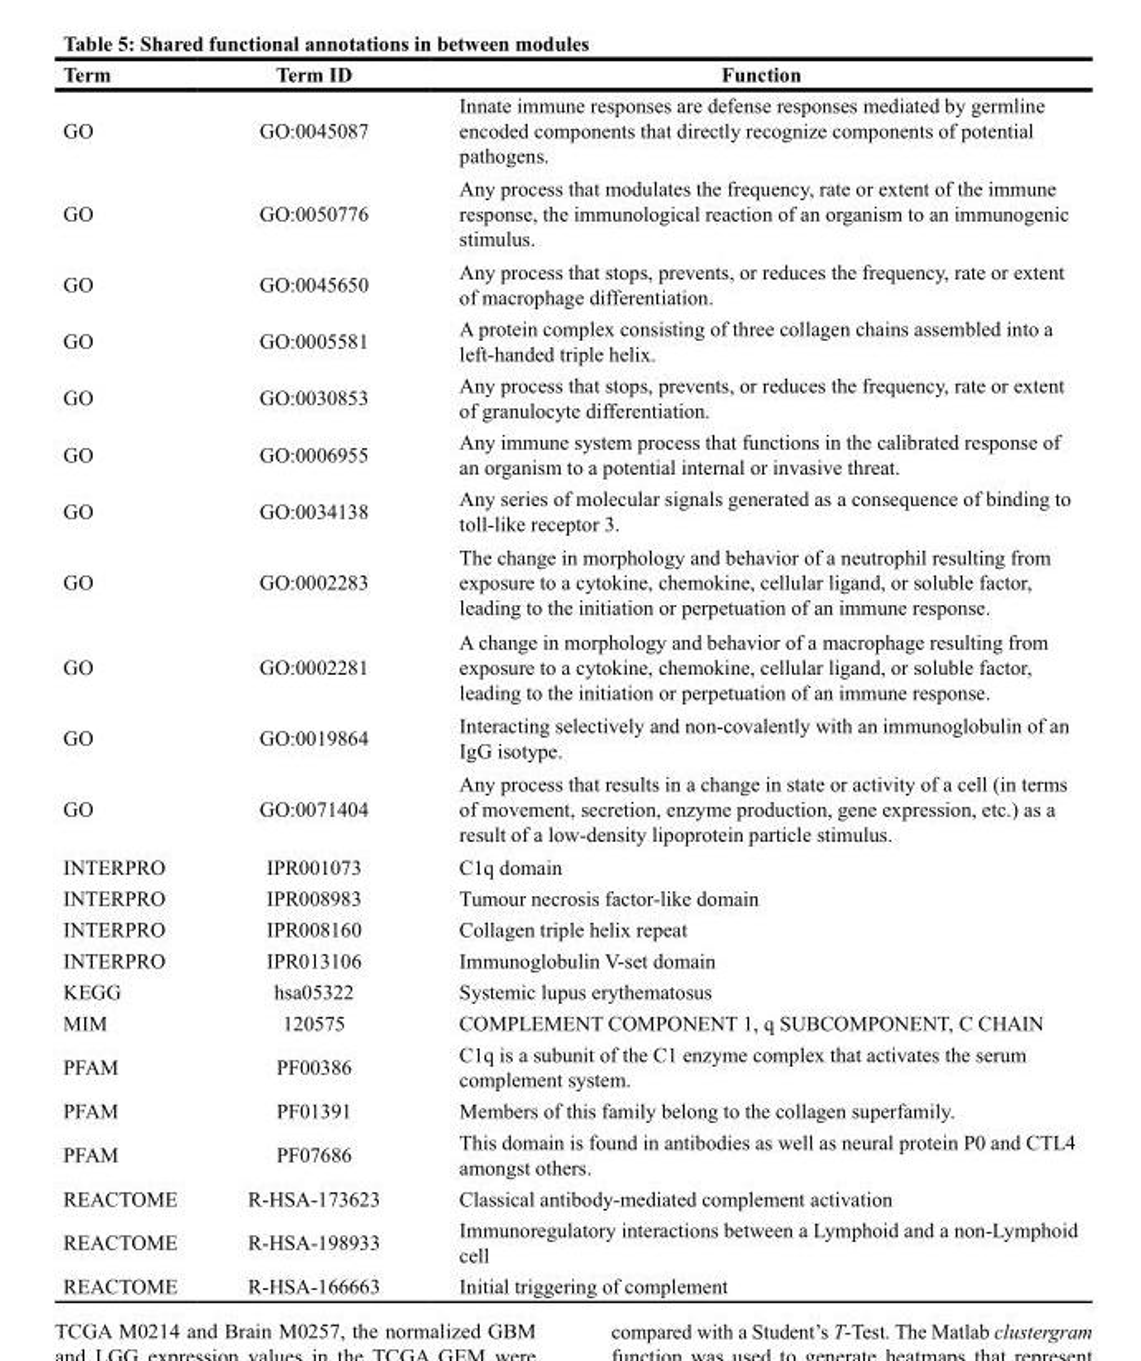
<table><thead><tr><td>Term</td><td>Term ID</td><td>Function</td></tr></thead><tbody><tr><td>GO</td><td>GO:0045087</td><td>Innate immune responses are defense responses mediated by germline encoded components that directly recognize components of potential pathogens.</td></tr><tr><td>GO</td><td>GO:0050776</td><td>Any process that modulates the frequency, rate or extent of the immune response, the immunological reaction of an organism to an immunogenic stimulus.</td></tr><tr><td>GO</td><td>GO:0045650</td><td>Any process that stops, prevents, or reduces the frequency, rate or extent of macrophage differentiation.</td></tr><tr><td>GO</td><td>GO:0005581</td><td>A protein complex consisting of three collagen chains assembled into a left-handed triple helix.</td></tr><tr><td>GO</td><td>GO:0030853</td><td>Any process that stops, prevents, or reduces the frequency, rate or extent of granulocyte differentiation.</td></tr><tr><td>GO</td><td>GO:0006955</td><td>Any immune system process that functions in the calibrated response of an organism to a potential internal or invasive threat.</td></tr><tr><td>GO</td><td>GO:0034138</td><td>Any series of molecular signals generated as a consequence of binding to toll-like receptor 3.</td></tr><tr><td>GO</td><td>GO:0002283</td><td>The change in morphology and behavior of a neutrophil resulting from exposure to a cytokine, chemokine, cellular ligand, or soluble factor, leading to the initiation or perpetuation of an immune response.</td></tr><tr><td>GO</td><td>GO:0002281</td><td>A change in morphology and behavior of a macrophage resulting from exposure to a cytokine, chemokine, cellular ligand, or soluble factor, leading to the initiation or perpetuation of an immune response.</td></tr><tr><td>GO</td><td>GO:0019864</td><td>Interacting selectively and non-covalently with an immunoglobulin of an IgG isotype.</td></tr><tr><td>GO</td><td>GO:0071404</td><td>Any process that results in a change in state or activity of a cell (in terms of movement, secretion, enzyme production, gene expression, etc.) as a result of a low-density lipoprotein particle stimulus.</td></tr><tr><td>INTERPRO</td><td>IPR001073</td><td>C1q domain</td></tr><tr><td>INTERPRO</td><td>IPR008983</td><td>Tumour necrosis factor-like domain</td></tr><tr><td>INTERPRO</td><td>IPR008160</td><td>Collagen triple helix repeat</td></tr><tr><td>INTERPRO</td><td>IPR013106</td><td>Immunoglobulin V-set domain</td></tr><tr><td>KEGG</td><td>hsa05322</td><td>Systemic lupus erythematosus</td></tr><tr><td>MIM</td><td>120575</td><td>COMPLEMENT COMPONENT 1, q SUBCOMPONENT, C CHAIN</td></tr><tr><td>PFAM</td><td>PF00386</td><td>C1q is a subunit of the C1 enzyme complex that activates the serum complement system.</td></tr><tr><td>PFAM</td><td>PF01391</td><td>Members of this family belong to the collagen superfamily.</td></tr><tr><td>PFAM</td><td>PF07686</td><td>This domain is found in antibodies as well as neural protein P0 and CTL4 amongst others.</td></tr><tr><td>REACTOME</td><td>R-HSA-173623</td><td>Classical antibody-mediated complement activation</td></tr><tr><td>REACTOME</td><td>R-HSA-198933</td><td>Immunoregulatory interactions between a Lymphoid and a non-Lymphoid cell</td></tr><tr><td>REACTOME</td><td>R-HSA-166663</td><td>Initial triggering of complement</td></tr></tbody></table>